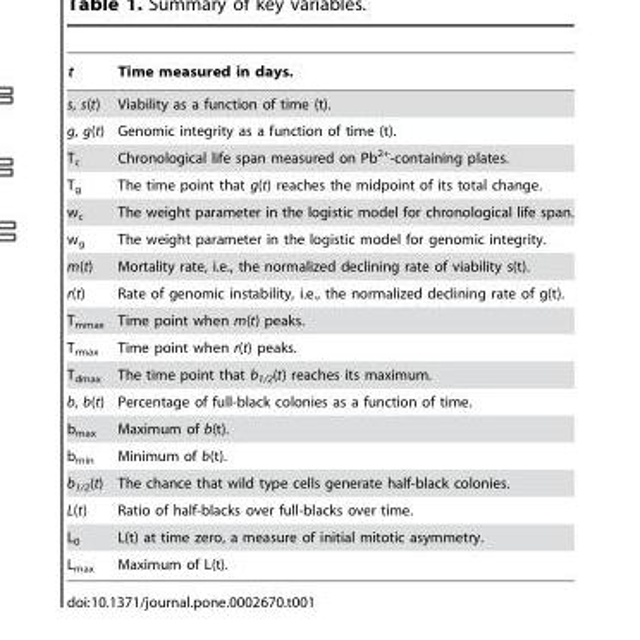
<table><thead><tr><td>t</td><td>Time measured in days.</td></tr></thead><tbody><tr><td>s, s(t)</td><td>Viability as a function of time (t).</td></tr><tr><td>g, g(t)</td><td>Genomic integrity as a function of time (t).</td></tr><tr><td>T<sub>c</sub></td><td>Chronological life span measured on Pb<sup>2+</sup>-containing plates.</td></tr><tr><td>T<sub>g</sub></td><td>The time point that g(t) reaches the midpoint of its total change.</td></tr><tr><td>w<sub>c</sub></td><td>The weight parameter in the logistic model for chronological life span.</td></tr><tr><td>w<sub>g</sub></td><td>The weight parameter in the logistic model for genomic integrity.</td></tr><tr><td>m(t)</td><td>Mortality rate, i.e., the normalized declining rate of viability s(t).</td></tr><tr><td>r(t)</td><td>Rate of genomic instability, i.e., the normalized declining rate of g(t).</td></tr><tr><td>T<sub>mmax</sub></td><td>Time point when m(t) peaks.</td></tr><tr><td>T<sub>rmax</sub></td><td>Time point when r(t) peaks.</td></tr><tr><td>T<sub>dmax</sub></td><td>The time point that b<sub>1/2</sub>(t) reaches its maximum.</td></tr><tr><td>b, b(t)</td><td>Percentage of full-black colonies as a function of time.</td></tr><tr><td>b<sub>max</sub></td><td>Maximum of b(t).</td></tr><tr><td>b<sub>min</sub></td><td>Minimum of b(t).</td></tr><tr><td>b<sub>1/2</sub>(t)</td><td>The chance that wild type cells generate half-black colonies.</td></tr><tr><td>L(t)</td><td>Ratio of half-blacks over full-blacks over time.</td></tr><tr><td>L<sub>0</sub></td><td>L(t) at time zero, a measure of initial mitotic asymmetry.</td></tr><tr><td>L<sub>max</sub></td><td>Maximum of L(t).</td></tr></tbody></table>